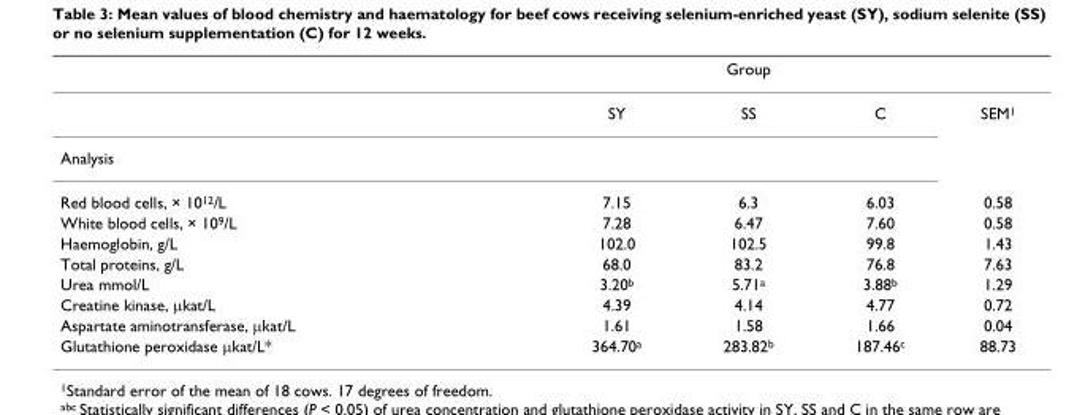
<table><thead><tr><td rowspan="2"></td><td colspan="3">Group</td><td rowspan="2">SEM<sup>1</sup></td></tr><tr><td>SY</td><td>SS</td><td>C</td></tr></thead><tbody><tr><td colspan="5">Analysis</td></tr><tr><td>Red blood cells, × 10<sup>12</sup>/L</td><td>7.15</td><td>6.3</td><td>6.03</td><td>0.58</td></tr><tr><td>White blood cells, × 10<sup>9</sup>/L</td><td>7.28</td><td>6.47</td><td>7.60</td><td>0.58</td></tr><tr><td>Haemoglobin, g/L</td><td>102.0</td><td>102.5</td><td>99.8</td><td>1.43</td></tr><tr><td>Total proteins, g/L</td><td>68.0</td><td>83.2</td><td>76.8</td><td>7.63</td></tr><tr><td>Urea mmol/L</td><td>3.20<sup>b</sup></td><td>5.71<sup>a</sup></td><td>3.88<sup>b</sup></td><td>1.29</td></tr><tr><td>Creatine kinase, μkat/L</td><td>4.39</td><td>4.14</td><td>4.77</td><td>0.72</td></tr><tr><td>Aspartate aminotransferase, μkat/L</td><td>1.61</td><td>1.58</td><td>1.66</td><td>0.04</td></tr><tr><td>Glutathione peroxidase μkat/L*</td><td>364.70<sup>a</sup></td><td>283.82<sup>b</sup></td><td>187.46<sup>c</sup></td><td>88.73</td></tr></tbody></table>